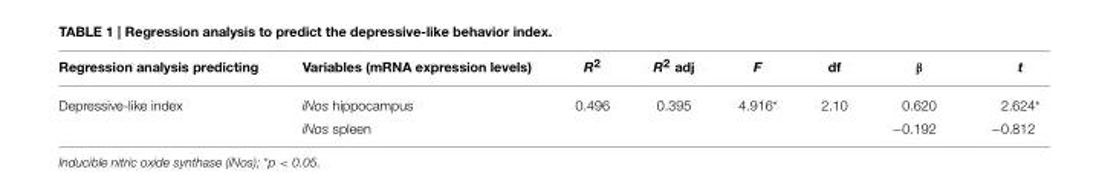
<table><thead><tr><td>Regression analysis predicting</td><td>Variables (mRNA expression levels)</td><td>R<sup>2</sup></td><td>R<sup>2</sup> adj</td><td>F</td><td>df</td><td>β</td><td>t</td></tr></thead><tbody><tr><td rowspan="2">Depressive-like index</td><td>iNos hippocampus</td><td>0.496</td><td>0.395</td><td>4.916*</td><td>2.10</td><td>0.620</td><td>2.624*</td></tr><tr><td>iNos spleen</td><td></td><td></td><td></td><td></td><td>−0.192</td><td>−0.812</td></tr></tbody></table>